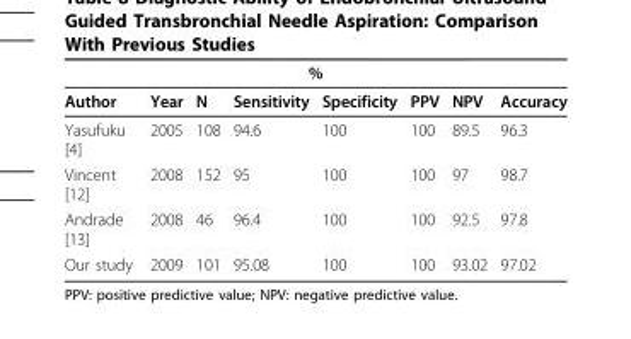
<table><thead><tr><td colspan="8">%</td></tr><tr><td>Author</td><td>Year</td><td>N</td><td>Sensitivity</td><td>Specificity</td><td>PPV</td><td>NPV</td><td>Accuracy</td></tr></thead><tbody><tr><td>Yasufuku [4]</td><td>2005</td><td>108</td><td>94.6</td><td>100</td><td>100</td><td>89.5</td><td>96.3</td></tr><tr><td>Vincent [12]</td><td>2008</td><td>152</td><td>95</td><td>100</td><td>100</td><td>97</td><td>98.7</td></tr><tr><td>Andrade [13]</td><td>2008</td><td>46</td><td>96.4</td><td>100</td><td>100</td><td>92.5</td><td>97.8</td></tr><tr><td>Our study</td><td>2009</td><td>101</td><td>95.08</td><td>100</td><td>100</td><td>93.02</td><td>97.02</td></tr></tbody></table>